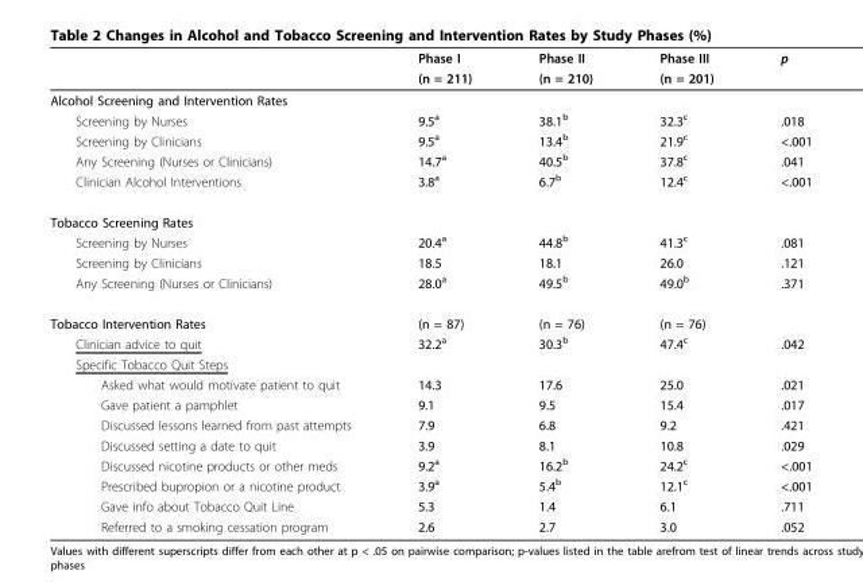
<table><thead><tr><td rowspan="2"></td><td rowspan="2">Phase I (n = 211)</td><td rowspan="2">Phase II (n = 210)</td><td rowspan="2">Phase III (n = 201)</td><td rowspan="2">p</td></tr><tr></tr></thead><tbody><tr><td colspan="5">Alcohol Screening and Intervention Rates</td></tr><tr><td>Screening by Nurses</td><td>9.5<sup>a</sup></td><td>38.1<sup>b</sup></td><td>32.3<sup>c</sup></td><td>.018</td></tr><tr><td>Screening by Clinicians</td><td>9.5<sup>a</sup></td><td>13.4<sup>b</sup></td><td>21.9<sup>c</sup></td><td>&lt;.001</td></tr><tr><td>Any Screening (Nurses or Clinicians)</td><td>14.7<sup>a</sup></td><td>40.5<sup>b</sup></td><td>37.8<sup>c</sup></td><td>.041</td></tr><tr><td>Clinician Alcohol Interventions</td><td>3.8<sup>a</sup></td><td>6.7<sup>b</sup></td><td>12.4<sup>c</sup></td><td>&lt;.001</td></tr><tr><td colspan="5">Tobacco Screening Rates</td></tr><tr><td>Screening by Nurses</td><td>20.4<sup>a</sup></td><td>44.8<sup>b</sup></td><td>41.3<sup>c</sup></td><td>.081</td></tr><tr><td>Screening by Clinicians</td><td>18.5</td><td>18.1</td><td>26.0</td><td>.121</td></tr><tr><td>Any Screening (Nurses or Clinicians)</td><td>28.0<sup>a</sup></td><td>49.5<sup>b</sup></td><td>49.0<sup>b</sup></td><td>.371</td></tr><tr><td>Tobacco Intervention Rates</td><td>(n = 87)</td><td>(n = 76)</td><td>(n = 76)</td><td></td></tr><tr><td>Clinician advice to quit</td><td>32.2<sup>a</sup></td><td>30.3<sup>b</sup></td><td>47.4<sup>c</sup></td><td>.042</td></tr><tr><td colspan="5">Specific Tobacco Quit Steps</td></tr><tr><td>Asked what would motivate patient to quit</td><td>14.3</td><td>17.6</td><td>25.0</td><td>.021</td></tr><tr><td>Gave patient a pamphlet</td><td>9.1</td><td>9.5</td><td>15.4</td><td>.017</td></tr><tr><td>Discussed lessons learned from past attempts</td><td>7.9</td><td>6.8</td><td>9.2</td><td>.421</td></tr><tr><td>Discussed setting a date to quit</td><td>3.9</td><td>8.1</td><td>10.8</td><td>.029</td></tr><tr><td>Discussed nicotine products or other meds</td><td>9.2<sup>a</sup></td><td>16.2<sup>b</sup></td><td>24.2<sup>c</sup></td><td>&lt;.001</td></tr><tr><td>Prescribed bupropion or a nicotine product</td><td>3.9<sup>a</sup></td><td>5.4<sup>b</sup></td><td>12.1<sup>c</sup></td><td>&lt;.001</td></tr><tr><td>Gave info about Tobacco Quit Line</td><td>5.3</td><td>1.4</td><td>6.1</td><td>.711</td></tr><tr><td>Referred to a smoking cessation program</td><td>2.6</td><td>2.7</td><td>3.0</td><td>.052</td></tr></tbody></table>